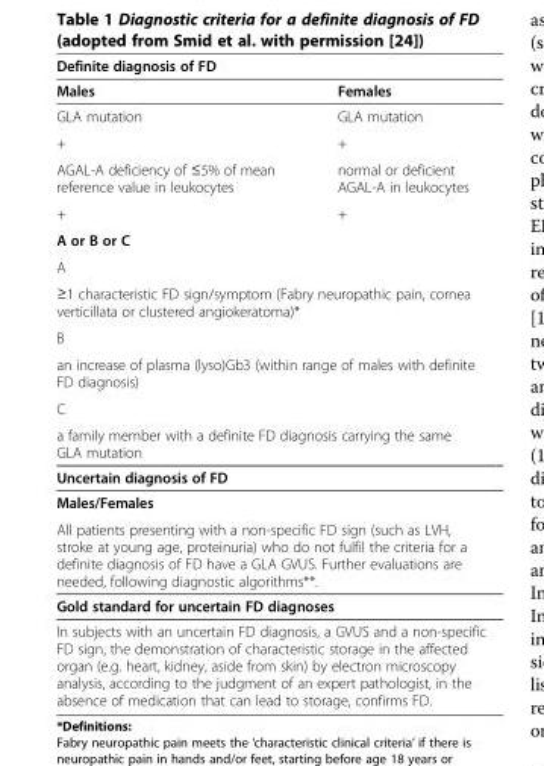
<table><thead><tr><td colspan="2">Definite diagnosis of FD</td></tr><tr><td>Males</td><td>Females</td></tr></thead><tbody><tr><td>GLA mutation</td><td>GLA mutation</td></tr><tr><td>+</td><td>+</td></tr><tr><td>AGAL-A deficiency of ≤5% of mean reference value in leukocytes</td><td>normal or deficient AGAL-A in leukocytes</td></tr><tr><td>+</td><td>+</td></tr><tr><td colspan="2">A or B or C</td></tr><tr><td colspan="2">A</td></tr><tr><td colspan="2">≥1 characteristic FD sign/symptom (Fabry neuropathic pain, cornea verticillata or clustered angiokeratoma)*</td></tr><tr><td colspan="2">B</td></tr><tr><td colspan="2">an increase of plasma (lyso)Gb3 (within range of males with definite FD diagnosis)</td></tr><tr><td colspan="2">C</td></tr><tr><td colspan="2">a family member with a definite FD diagnosis carrying the same GLA mutation</td></tr><tr><td colspan="2">Uncertain diagnosis of FD</td></tr><tr><td colspan="2">Males/Females</td></tr><tr><td colspan="2">All patients presenting with a non-specific FD sign (such as LVH, stroke at young age, proteinuria) who do not fulfil the criteria for a definite diagnosis of FD have a GLA GVUS. Further evaluations are needed, following diagnostic algorithms**.</td></tr><tr><td colspan="2">Gold standard for uncertain FD diagnoses</td></tr><tr><td colspan="2">In subjects with an uncertain FD diagnosis, a GVUS and a non-specific FD sign, the demonstration of characteristic storage in the affected organ (e.g. heart, kidney, aside from skin) by electron microscopy analysis, according to the judgment of an expert pathologist, in the absence of medication that can lead to storage, confirms FD.</td></tr></tbody></table>